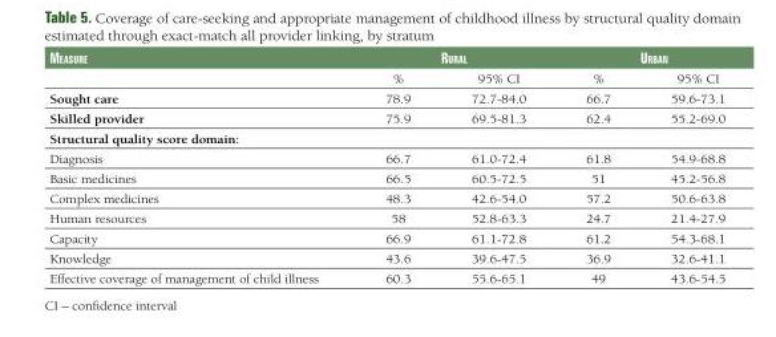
<table><thead><tr><td rowspan="2">measure</td><td colspan="2">ruraL</td><td colspan="2">urban</td></tr><tr><td>%</td><td>95% CI</td><td>%</td><td>95% CI</td></tr></thead><tbody><tr><td>Sought care</td><td>78.9</td><td>72.7-84.0</td><td>66.7</td><td>59.6-73.1</td></tr><tr><td>Skilled provider</td><td>75.9</td><td>69.5-81.3</td><td>62.4</td><td>55.2-69.0</td></tr><tr><td colspan="5">Structural quality score domain:</td></tr><tr><td>Diagnosis</td><td>66.7</td><td>61.0-72.4</td><td>61.8</td><td>54.9-68.8</td></tr><tr><td>Basic medicines</td><td>66.5</td><td>60.5-72.5</td><td>51</td><td>45.2-56.8</td></tr><tr><td>Complex medicines</td><td>48.3</td><td>42.6-54.0</td><td>57.2</td><td>50.6-63.8</td></tr><tr><td>Human resources</td><td>58</td><td>52.8-63.3</td><td>24.7</td><td>21.4-27.9</td></tr><tr><td>Capacity</td><td>66.9</td><td>61.1-72.8</td><td>61.2</td><td>54.3-68.1</td></tr><tr><td>Knowledge</td><td>43.6</td><td>39.6-47.5</td><td>36.9</td><td>32.6-41.1</td></tr><tr><td>Effective coverage of management of child illness</td><td>60.3</td><td>55.6-65.1</td><td>49</td><td>43.6-54.5</td></tr></tbody></table>